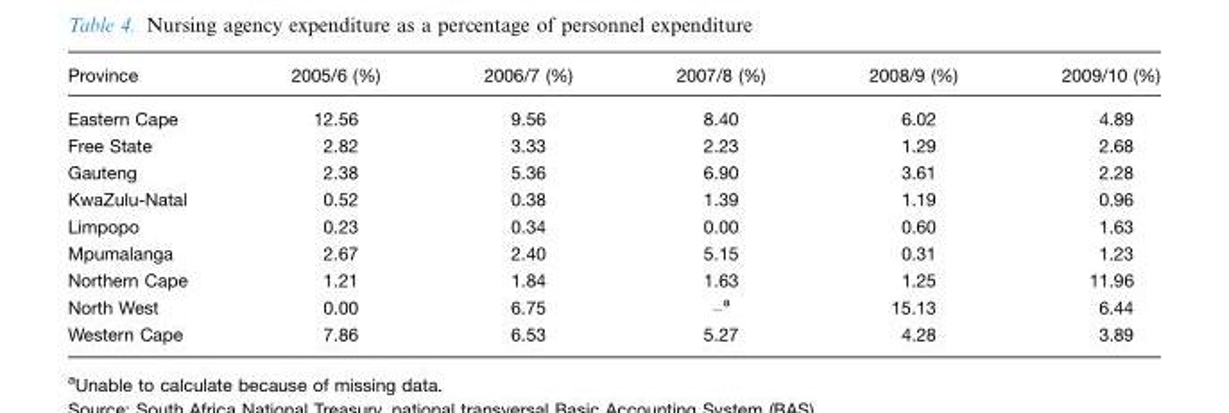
<table><thead><tr><td>Province</td><td>2005/6 (%)</td><td>2006/7 (%)</td><td>2007/8 (%)</td><td>2008/9 (%)</td><td>2009/10 (%)</td></tr></thead><tbody><tr><td>Eastern Cape</td><td>12.56</td><td>9.56</td><td>8.40</td><td>6.02</td><td>4.89</td></tr><tr><td>Free State</td><td>2.82</td><td>3.33</td><td>2.23</td><td>1.29</td><td>2.68</td></tr><tr><td>Gauteng</td><td>2.38</td><td>5.36</td><td>6.90</td><td>3.61</td><td>2.28</td></tr><tr><td>KwaZulu-Natal</td><td>0.52</td><td>0.38</td><td>1.39</td><td>1.19</td><td>0.96</td></tr><tr><td>Limpopo</td><td>0.23</td><td>0.34</td><td>0.00</td><td>0.60</td><td>1.63</td></tr><tr><td>Mpumalanga</td><td>2.67</td><td>2.40</td><td>5.15</td><td>0.31</td><td>1.23</td></tr><tr><td>Northern Cape</td><td>1.21</td><td>1.84</td><td>1.63</td><td>1.25</td><td>11.96</td></tr><tr><td>North West</td><td>0.00</td><td>6.75</td><td>–a</td><td>15.13</td><td>6.44</td></tr><tr><td>Western Cape</td><td>7.86</td><td>6.53</td><td>5.27</td><td>4.28</td><td>3.89</td></tr></tbody></table>